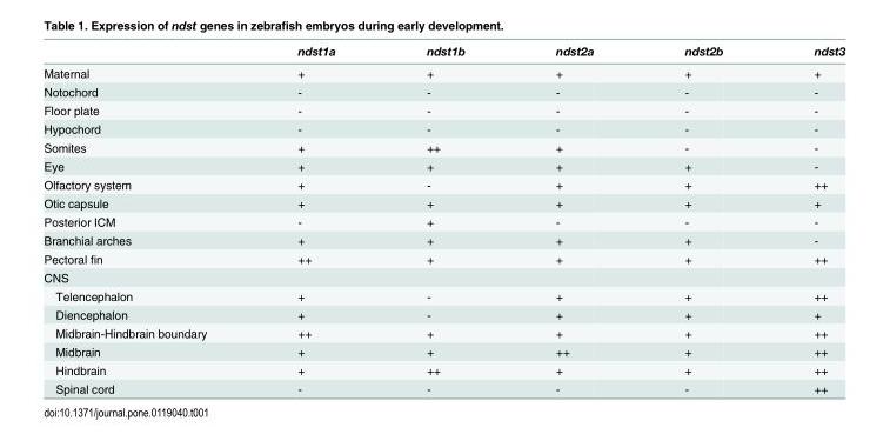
<table><thead><tr><td></td><td>ndst1a</td><td>ndst1b</td><td>ndst2a</td><td>ndst2b</td><td>ndst3</td></tr></thead><tbody><tr><td>Maternal</td><td>+</td><td>+</td><td>+</td><td>+</td><td>+</td></tr><tr><td>Notochord</td><td>-</td><td>-</td><td>-</td><td>-</td><td>-</td></tr><tr><td>Floor plate</td><td>-</td><td>-</td><td>-</td><td>-</td><td>-</td></tr><tr><td>Hypochord</td><td>-</td><td>-</td><td>-</td><td>-</td><td>-</td></tr><tr><td>Somites</td><td>+</td><td>++</td><td>+</td><td>-</td><td>-</td></tr><tr><td>Eye</td><td>+</td><td>+</td><td>+</td><td>+</td><td>-</td></tr><tr><td>Olfactory system</td><td>+</td><td>-</td><td>+</td><td>+</td><td>++</td></tr><tr><td>Otic capsule</td><td>+</td><td>+</td><td>+</td><td>+</td><td>+</td></tr><tr><td>Posterior ICM</td><td>-</td><td>+</td><td>-</td><td>-</td><td>-</td></tr><tr><td>Branchial arches</td><td>+</td><td>+</td><td>+</td><td>+</td><td>-</td></tr><tr><td>Pectoral fin</td><td>++</td><td>+</td><td>+</td><td>+</td><td>++</td></tr><tr><td colspan="6">CNS</td></tr><tr><td>Telencephalon</td><td>+</td><td>-</td><td>+</td><td>+</td><td>++</td></tr><tr><td>Diencephalon</td><td>+</td><td>-</td><td>+</td><td>+</td><td>+</td></tr><tr><td>Midbrain-Hindbrain boundary</td><td>++</td><td>+</td><td>+</td><td>+</td><td>++</td></tr><tr><td>Midbrain</td><td>+</td><td>+</td><td>++</td><td>+</td><td>++</td></tr><tr><td>Hindbrain</td><td>+</td><td>++</td><td>+</td><td>+</td><td>++</td></tr><tr><td>Spinal cord</td><td>-</td><td>-</td><td>-</td><td>-</td><td>++</td></tr></tbody></table>